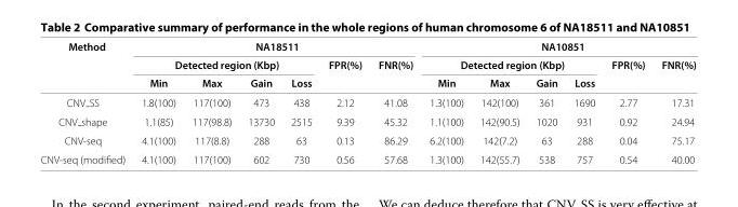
<table><thead><tr><td rowspan="3">Method</td><td colspan="6">NA18511</td><td colspan="6">NA10851</td></tr><tr><td colspan="4">Detected region (Kbp)</td><td rowspan="2">FPR(%)</td><td rowspan="2">FNR(%)</td><td colspan="4">Detected region (Kbp)</td><td rowspan="2">FPR(%)</td><td rowspan="2">FNR(%)</td></tr><tr><td>Min</td><td>Max</td><td>Gain</td><td>Loss</td><td>Min</td><td>Max</td><td>Gain</td><td>Loss</td></tr></thead><tbody><tr><td>CNV SS</td><td>1.8(100)</td><td>117(100)</td><td>473</td><td>438</td><td>2.12</td><td>41.08</td><td>1.3(100)</td><td>142(100)</td><td>361</td><td>1690</td><td>2.77</td><td>17.31</td></tr><tr><td>CNV shape</td><td>1.1(85)</td><td>117(98.8)</td><td>13730</td><td>2515</td><td>9.39</td><td>45.32</td><td>1.1(100)</td><td>142(90.5)</td><td>1020</td><td>931</td><td>0.92</td><td>24.94</td></tr><tr><td>CNV-seq</td><td>4.1(100)</td><td>117(8.8)</td><td>288</td><td>63</td><td>0.13</td><td>86.29</td><td>6.2(100)</td><td>142(7.2)</td><td>63</td><td>288</td><td>0.04</td><td>75.17</td></tr><tr><td>CNV-seq (modified)</td><td>4.1(100)</td><td>117(100)</td><td>602</td><td>730</td><td>0.56</td><td>57.68</td><td>1.3(100)</td><td>142(55.7)</td><td>538</td><td>757</td><td>0.54</td><td>40.00</td></tr></tbody></table>